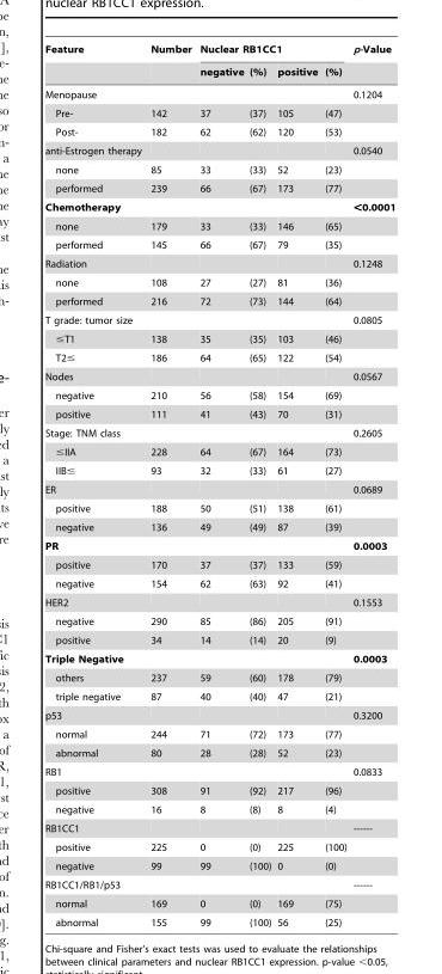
<table><thead><tr><td rowspan="2">Feature</td><td rowspan="2">Number</td><td colspan="4">Nuclear RB1CC1</td><td rowspan="2">p-Value</td></tr><tr><td>negative</td><td>(%)</td><td>positive</td><td>(%)</td></tr></thead><tbody><tr><td>Menopause</td><td></td><td></td><td></td><td></td><td></td><td>0.1204</td></tr><tr><td>Pre-</td><td>142</td><td>37</td><td>(37)</td><td>105</td><td>(47)</td><td></td></tr><tr><td>Post-</td><td>182</td><td>62</td><td>(62)</td><td>120</td><td>(53)</td><td></td></tr><tr><td>anti-Estrogen therapy</td><td></td><td></td><td></td><td></td><td></td><td>0.0540</td></tr><tr><td>none</td><td>85</td><td>33</td><td>(33)</td><td>52</td><td>(23)</td><td></td></tr><tr><td>performed</td><td>239</td><td>66</td><td>(67)</td><td>173</td><td>(77)</td><td></td></tr><tr><td>Chemotherapy</td><td></td><td></td><td></td><td></td><td></td><td>&lt;0.0001</td></tr><tr><td>none</td><td>179</td><td>33</td><td>(33)</td><td>146</td><td>(65)</td><td></td></tr><tr><td>performed</td><td>145</td><td>66</td><td>(67)</td><td>79</td><td>(35)</td><td></td></tr><tr><td>Radiation</td><td></td><td></td><td></td><td></td><td></td><td>0.1248</td></tr><tr><td>none</td><td>108</td><td>27</td><td>(27)</td><td>81</td><td>(36)</td><td></td></tr><tr><td>performed</td><td>216</td><td>72</td><td>(73)</td><td>144</td><td>(64)</td><td></td></tr><tr><td>T grade: tumor size</td><td></td><td></td><td></td><td></td><td></td><td>0.0805</td></tr><tr><td>≤T1</td><td>138</td><td>35</td><td>(35)</td><td>103</td><td>(46)</td><td></td></tr><tr><td>T2≤</td><td>186</td><td>64</td><td>(65)</td><td>122</td><td>(54)</td><td></td></tr><tr><td>Nodes</td><td></td><td></td><td></td><td></td><td></td><td>0.0567</td></tr><tr><td>negative</td><td>210</td><td>56</td><td>(58)</td><td>154</td><td>(69)</td><td></td></tr><tr><td>positive</td><td>111</td><td>41</td><td>(43)</td><td>70</td><td>(31)</td><td></td></tr><tr><td>Stage: TNM class</td><td></td><td></td><td></td><td></td><td></td><td>0.2605</td></tr><tr><td>≤IIA</td><td>228</td><td>64</td><td>(67)</td><td>164</td><td>(73)</td><td></td></tr><tr><td>IIB≤</td><td>93</td><td>32</td><td>(33)</td><td>61</td><td>(27)</td><td></td></tr><tr><td>ER</td><td></td><td></td><td></td><td></td><td></td><td>0.0689</td></tr><tr><td>positive</td><td>188</td><td>50</td><td>(51)</td><td>138</td><td>(61)</td><td></td></tr><tr><td>negative</td><td>136</td><td>49</td><td>(49)</td><td>87</td><td>(39)</td><td></td></tr><tr><td>PR</td><td></td><td></td><td></td><td></td><td></td><td>0.0003</td></tr><tr><td>positive</td><td>170</td><td>37</td><td>(37)</td><td>133</td><td>(59)</td><td></td></tr><tr><td>negative</td><td>154</td><td>62</td><td>(63)</td><td>92</td><td>(41)</td><td></td></tr><tr><td>HER2</td><td></td><td></td><td></td><td></td><td></td><td>0.1553</td></tr><tr><td>negative</td><td>290</td><td>85</td><td>(86)</td><td>205</td><td>(91)</td><td></td></tr><tr><td>positive</td><td>34</td><td>14</td><td>(14)</td><td>20</td><td>(9)</td><td></td></tr><tr><td>Triple Negative</td><td></td><td></td><td></td><td></td><td></td><td>0.0003</td></tr><tr><td>others</td><td>237</td><td>59</td><td>(60)</td><td>178</td><td>(79)</td><td></td></tr><tr><td>triple negative</td><td>87</td><td>40</td><td>(40)</td><td>47</td><td>(21)</td><td></td></tr><tr><td>p53</td><td></td><td></td><td></td><td></td><td></td><td>0.3200</td></tr><tr><td>normal</td><td>244</td><td>71</td><td>(72)</td><td>173</td><td>(77)</td><td></td></tr><tr><td>abnormal</td><td>80</td><td>28</td><td>(28)</td><td>52</td><td>(23)</td><td></td></tr><tr><td>RB1</td><td></td><td></td><td></td><td></td><td></td><td>0.0833</td></tr><tr><td>positive</td><td>308</td><td>91</td><td>(92)</td><td>217</td><td>(96)</td><td></td></tr><tr><td>negative</td><td>16</td><td>8</td><td>(8)</td><td>8</td><td>(4)</td><td></td></tr><tr><td>RB1CC1</td><td></td><td></td><td></td><td></td><td></td><td>------</td></tr><tr><td>positive</td><td>225</td><td>0</td><td>(0)</td><td>225</td><td>(100)</td><td></td></tr><tr><td>negative</td><td>99</td><td>99</td><td>(100)</td><td>0</td><td>(0)</td><td></td></tr><tr><td>RB1CC1/RB1/p53</td><td></td><td></td><td></td><td></td><td></td><td>------</td></tr><tr><td>normal</td><td>169</td><td>0</td><td>(0)</td><td>169</td><td>(75)</td><td></td></tr><tr><td>abnormal</td><td>155</td><td>99</td><td>(100)</td><td>56</td><td>(25)</td><td></td></tr></tbody></table>